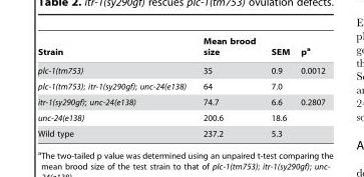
<table><thead><tr><td>Strain</td><td>Mean brood size</td><td>SEM</td><td>p<sup>a</sup></td></tr></thead><tbody><tr><td>plc-1(tm753)</td><td>35</td><td>0.9</td><td>0.0012</td></tr><tr><td>plc-1(tm753); itr-1(sy290gf); unc-24(e138)</td><td>64</td><td>7.0</td><td></td></tr><tr><td>itr-1(sy290gf); unc-24(e138)</td><td>74.7</td><td>6.6</td><td>0.2807</td></tr><tr><td>unc-24(e138)</td><td>200.6</td><td>18.6</td><td></td></tr><tr><td>Wild type</td><td>237.2</td><td>5.3</td><td></td></tr></tbody></table>